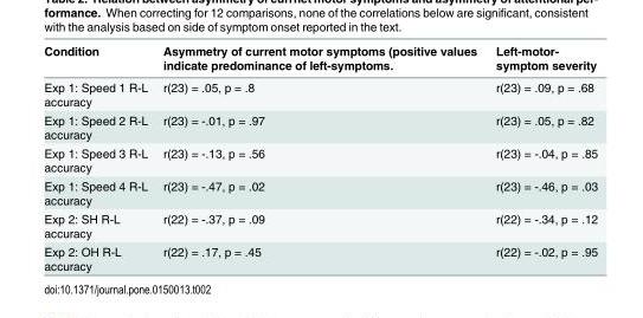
<table><thead><tr><td>Condition</td><td>Asymmetry of current motor symptoms (positive values indicate predominance of left-symptoms.</td><td>Left-motor- symptom severity</td></tr></thead><tbody><tr><td>Exp 1: Speed 1 R-L accuracy</td><td>r(23) = .05, p = .8</td><td>r(23) = .09, p = .68</td></tr><tr><td>Exp 1: Speed 2 R-L accuracy</td><td>r(23) = -.01, p = .97</td><td>r(23) = .05, p = .82</td></tr><tr><td>Exp 1: Speed 3 R-L accuracy</td><td>r(23) = -.13, p = .56</td><td>r(23) = -.04, p = .85</td></tr><tr><td>Exp 1: Speed 4 R-L accuracy</td><td>r(23) = -.47, p = .02</td><td>r(23) = -.46, p = .03</td></tr><tr><td>Exp 2: SH R-L accuracy</td><td>r(22) = -.37, p = .09</td><td>r(22) = -.34, p = .12</td></tr><tr><td>Exp 2: OH R-L accuracy</td><td>r(22) = .17, p = .45</td><td>r(22) = -.02, p = .95</td></tr></tbody></table>